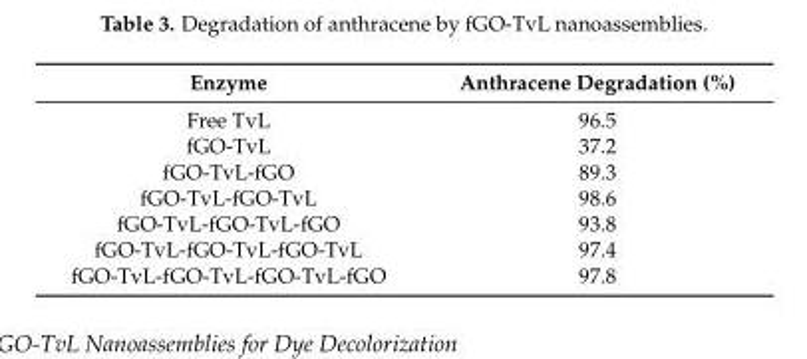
<table><thead><tr><td>Enzyme</td><td>Anthracene Degradation (%)</td></tr></thead><tbody><tr><td>Free TvL</td><td>96.5</td></tr><tr><td>fGO-TvL</td><td>37.2</td></tr><tr><td>fGO-TvL-fGO</td><td>89.3</td></tr><tr><td>fGO-TvL-fGO-TvL</td><td>98.6</td></tr><tr><td>fGO-TvL-fGO-TvL-fGO</td><td>93.8</td></tr><tr><td>fGO-TvL-fGO-TvL-fGO-TvL</td><td>97.4</td></tr><tr><td>fGO-TvL-fGO-TvL-fGO-TvL-fGO</td><td>97.8</td></tr></tbody></table>